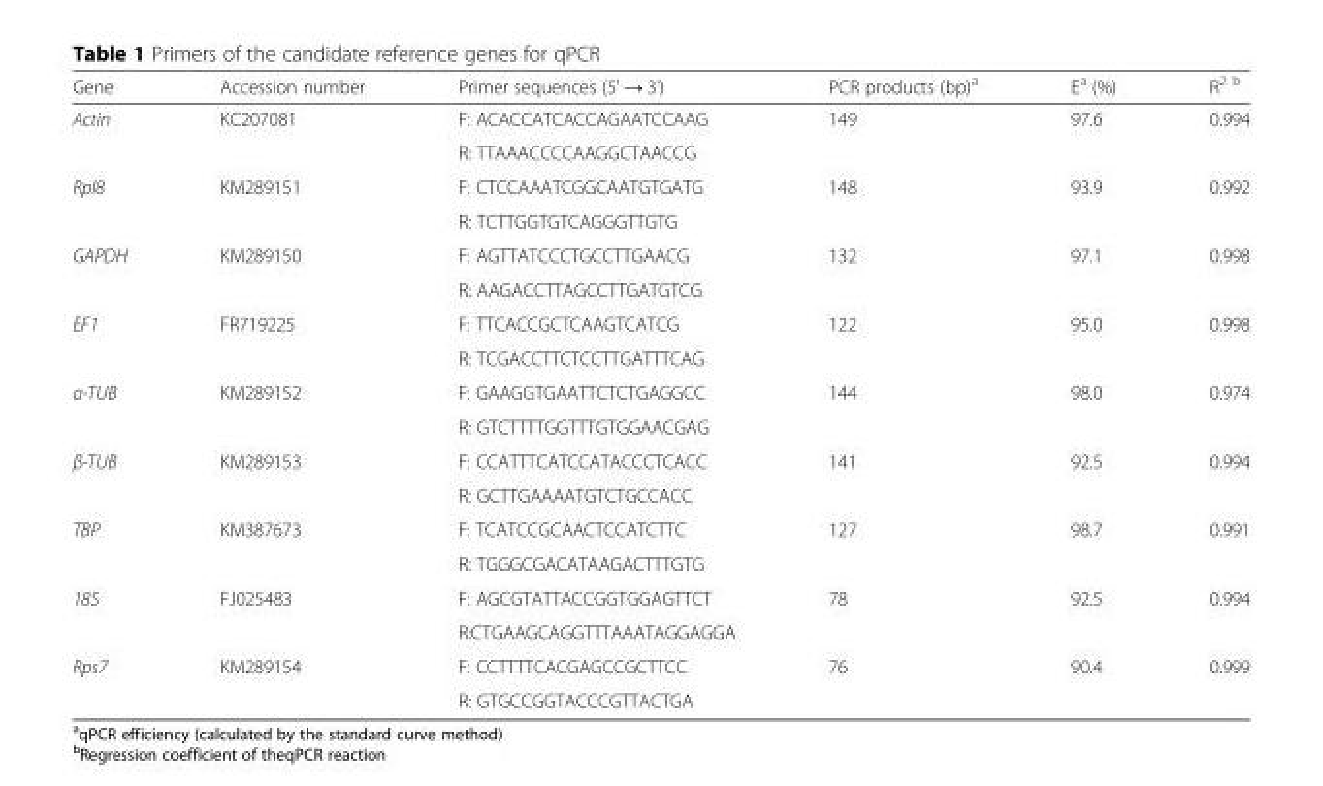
<table><thead><tr><td>Gene</td><td>Accession number</td><td>Primer sequences (5&#x27; → 3&#x27;)</td><td>PCR products (bp)<sup>a</sup></td><td>E<sup>a</sup> (%)</td><td>R<sup>2 b</sup></td></tr></thead><tbody><tr><td rowspan="2">Actin</td><td>KC207081</td><td>F: ACACCATCACCAGAATCCAAG</td><td>149</td><td>97.6</td><td>0.994</td></tr><tr><td></td><td>R: TTAAACCCCAAGGCTAACCG</td><td></td><td></td><td></td></tr><tr><td rowspan="2">Rpl8</td><td>KM289151</td><td>F: CTCCAAATCGGCAATGTGATG</td><td>148</td><td>93.9</td><td>0.992</td></tr><tr><td></td><td>R: TCTTGGTGTCAGGGTTGTG</td><td></td><td></td><td></td></tr><tr><td rowspan="2">GAPDH</td><td>KM289150</td><td>F: AGTTATCCCTGCCTTGAACG</td><td>132</td><td>97.1</td><td>0.998</td></tr><tr><td></td><td>R: AAGACCTTAGCCTTGATGTCG</td><td></td><td></td><td></td></tr><tr><td rowspan="2">EF1</td><td>FR719225</td><td>F: TTCACCGCTCAAGTCATCG</td><td>122</td><td>95.0</td><td>0.998</td></tr><tr><td></td><td>R: TCGACCTTCTCCTTGATTTCAG</td><td></td><td></td><td></td></tr><tr><td rowspan="2">α-TUB</td><td>KM289152</td><td>F: GAAGGTGAATTCTCTGAGGCC</td><td>144</td><td>98.0</td><td>0.974</td></tr><tr><td></td><td>R: GTCTTTTGGTTTGTGGAACGAG</td><td></td><td></td><td></td></tr><tr><td rowspan="2">β-TUB</td><td>KM289153</td><td>F: CCATTTCATCCATACCCTCACC</td><td>141</td><td>92.5</td><td>0.994</td></tr><tr><td></td><td>R: GCTTGAAAATGTCTGCCACC</td><td></td><td></td><td></td></tr><tr><td rowspan="2">TBP</td><td>KM387673</td><td>F: TCATCCGCAACTCCATCTTC</td><td>127</td><td>98.7</td><td>0.991</td></tr><tr><td></td><td>R: TGGGCGACATAAGACTTTGTG</td><td></td><td></td><td></td></tr><tr><td rowspan="2">18S</td><td>FJ025483</td><td>F: AGCGTATTACCGGTGGAGTTCT</td><td>78</td><td>92.5</td><td>0.994</td></tr><tr><td></td><td>R:CTGAAGCAGGTTTAAATAGGAGGA</td><td></td><td></td><td></td></tr><tr><td rowspan="2">Rps7</td><td>KM289154</td><td>F: CCTTTTCACGAGCCGCTTCC</td><td>76</td><td>90.4</td><td>0.999</td></tr><tr><td></td><td>R: GTGCCGGTACCCGTTACTGA</td><td></td><td></td><td></td></tr></tbody></table>